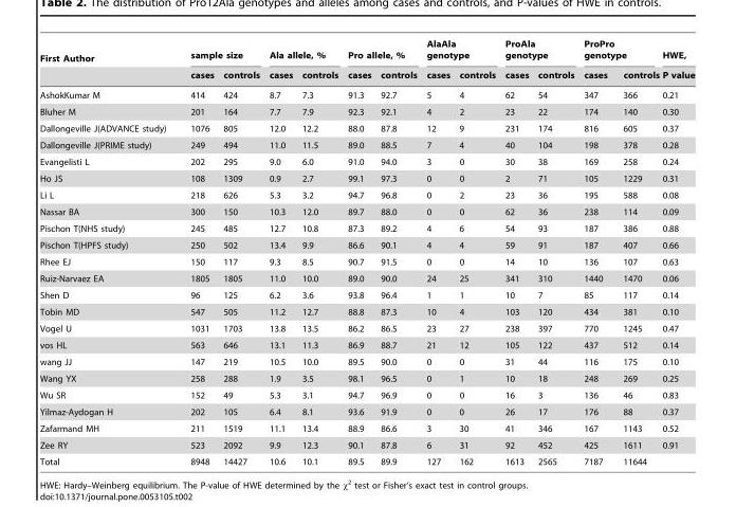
<table><thead><tr><td rowspan="2">First Author</td><td colspan="2">sample size</td><td colspan="2">Ala allele, %</td><td colspan="2">Pro allele, %</td><td colspan="2">AlaAla genotype</td><td colspan="2">ProAla genotype</td><td colspan="2">ProPro genotype</td><td rowspan="2">HWE, P value</td></tr><tr><td>cases</td><td>controls</td><td>cases</td><td>controls</td><td>cases</td><td>controls</td><td>cases</td><td>controls</td><td>cases</td><td>controls</td><td>cases</td><td>controls</td></tr></thead><tbody><tr><td>AshokKumar M</td><td>414</td><td>424</td><td>8.7</td><td>7.3</td><td>91.3</td><td>92.7</td><td>5</td><td>4</td><td>62</td><td>54</td><td>347</td><td>366</td><td>0.21</td></tr><tr><td>Bluher M</td><td>201</td><td>164</td><td>7.7</td><td>7.9</td><td>92.3</td><td>92.1</td><td>4</td><td>2</td><td>23</td><td>22</td><td>174</td><td>140</td><td>0.30</td></tr><tr><td>Dallongeville J(ADVANCE study)</td><td>1076</td><td>805</td><td>12.0</td><td>12.2</td><td>88.0</td><td>87.8</td><td>12</td><td>9</td><td>231</td><td>174</td><td>816</td><td>605</td><td>0.37</td></tr><tr><td>Dallongeville J(PRIME study)</td><td>249</td><td>494</td><td>11.0</td><td>11.5</td><td>89.0</td><td>88.5</td><td>7</td><td>4</td><td>40</td><td>104</td><td>198</td><td>378</td><td>0.28</td></tr><tr><td>Evangelisti L</td><td>202</td><td>295</td><td>9.0</td><td>6.0</td><td>91.0</td><td>94.0</td><td>3</td><td>0</td><td>30</td><td>38</td><td>169</td><td>258</td><td>0.24</td></tr><tr><td>Ho JS</td><td>108</td><td>1309</td><td>0.9</td><td>2.7</td><td>99.1</td><td>97.3</td><td>0</td><td>0</td><td>2</td><td>71</td><td>105</td><td>1229</td><td>0.31</td></tr><tr><td>Li L</td><td>218</td><td>626</td><td>5.3</td><td>3.2</td><td>94.7</td><td>96.8</td><td>0</td><td>2</td><td>23</td><td>36</td><td>195</td><td>588</td><td>0.08</td></tr><tr><td>Nassar BA</td><td>300</td><td>150</td><td>10.3</td><td>12.0</td><td>89.7</td><td>88.0</td><td>0</td><td>0</td><td>62</td><td>36</td><td>238</td><td>114</td><td>0.09</td></tr><tr><td>Pischon T(NHS study)</td><td>245</td><td>485</td><td>12.7</td><td>10.8</td><td>87.3</td><td>89.2</td><td>4</td><td>6</td><td>54</td><td>93</td><td>187</td><td>386</td><td>0.88</td></tr><tr><td>Pischon T(HPFS study)</td><td>250</td><td>502</td><td>13.4</td><td>9.9</td><td>86.6</td><td>90.1</td><td>4</td><td>4</td><td>59</td><td>91</td><td>187</td><td>407</td><td>0.66</td></tr><tr><td>Rhee EJ</td><td>150</td><td>117</td><td>9.3</td><td>8.5</td><td>90.7</td><td>91.5</td><td>0</td><td>0</td><td>14</td><td>10</td><td>136</td><td>107</td><td>0.63</td></tr><tr><td>Ruiz-Narvaez EA</td><td>1805</td><td>1805</td><td>11.0</td><td>10.0</td><td>89.0</td><td>90.0</td><td>24</td><td>25</td><td>341</td><td>310</td><td>1440</td><td>1470</td><td>0.06</td></tr><tr><td>Shen D</td><td>96</td><td>125</td><td>6.2</td><td>3.6</td><td>93.8</td><td>96.4</td><td>1</td><td>1</td><td>10</td><td>7</td><td>85</td><td>117</td><td>0.14</td></tr><tr><td>Tobin MD</td><td>547</td><td>505</td><td>11.2</td><td>12.7</td><td>88.8</td><td>87.3</td><td>10</td><td>4</td><td>103</td><td>120</td><td>434</td><td>381</td><td>0.10</td></tr><tr><td>Vogel U</td><td>1031</td><td>1703</td><td>13.8</td><td>13.5</td><td>86.2</td><td>86.5</td><td>23</td><td>27</td><td>238</td><td>397</td><td>770</td><td>1245</td><td>0.47</td></tr><tr><td>vos HL</td><td>563</td><td>646</td><td>13.1</td><td>11.3</td><td>86.9</td><td>88.7</td><td>21</td><td>12</td><td>105</td><td>122</td><td>437</td><td>512</td><td>0.14</td></tr><tr><td>wang JJ</td><td>147</td><td>219</td><td>10.5</td><td>10.0</td><td>89.5</td><td>90.0</td><td>0</td><td>0</td><td>31</td><td>44</td><td>116</td><td>175</td><td>0.10</td></tr><tr><td>Wang YX</td><td>258</td><td>288</td><td>1.9</td><td>3.5</td><td>98.1</td><td>96.5</td><td>0</td><td>1</td><td>10</td><td>18</td><td>248</td><td>269</td><td>0.25</td></tr><tr><td>Wu SR</td><td>152</td><td>49</td><td>5.3</td><td>3.1</td><td>94.7</td><td>96.9</td><td>0</td><td>0</td><td>16</td><td>3</td><td>136</td><td>46</td><td>0.83</td></tr><tr><td>Yilmaz-Aydogan H</td><td>202</td><td>105</td><td>6.4</td><td>8.1</td><td>93.6</td><td>91.9</td><td>0</td><td>0</td><td>26</td><td>17</td><td>176</td><td>88</td><td>0.37</td></tr><tr><td>Zafarmand MH</td><td>211</td><td>1519</td><td>11.1</td><td>13.4</td><td>88.9</td><td>86.6</td><td>3</td><td>30</td><td>41</td><td>346</td><td>167</td><td>1143</td><td>0.52</td></tr><tr><td>Zee RY</td><td>523</td><td>2092</td><td>9.9</td><td>12.3</td><td>90.1</td><td>87.8</td><td>6</td><td>31</td><td>92</td><td>452</td><td>425</td><td>1611</td><td>0.91</td></tr><tr><td>Total</td><td>8948</td><td>14427</td><td>10.6</td><td>10.1</td><td>89.5</td><td>89.9</td><td>127</td><td>162</td><td>1613</td><td>2565</td><td>7187</td><td>11644</td><td></td></tr></tbody></table>